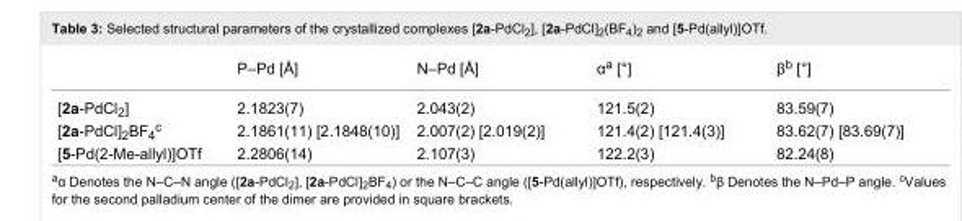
<table><thead><tr><td></td><td>P–Pd [Å]</td><td>N–Pd [Å]</td><td>α<sup>a</sup> [°]</td><td>β<sup>b</sup> [°]</td></tr></thead><tbody><tr><td>[2a-PdCl<sub>2</sub>]</td><td>2.1823(7)</td><td>2.043(2)</td><td>121.5(2)</td><td>83.59(7)</td></tr><tr><td>[2a-PdCl]<sub>2</sub>BF<sub>4</sub><sup>c</sup></td><td>2.1861(11) [2.1848(10)]</td><td>2.007(2) [2.019(2)]</td><td>121.4(2) [121.4(3)]</td><td>83.62(7) [83.69(7)]</td></tr><tr><td>[5-Pd(2-Me-allyl)]OTf</td><td>2.2806(14)</td><td>2.107(3)</td><td>122.2(3)</td><td>82.24(8)</td></tr></tbody></table>